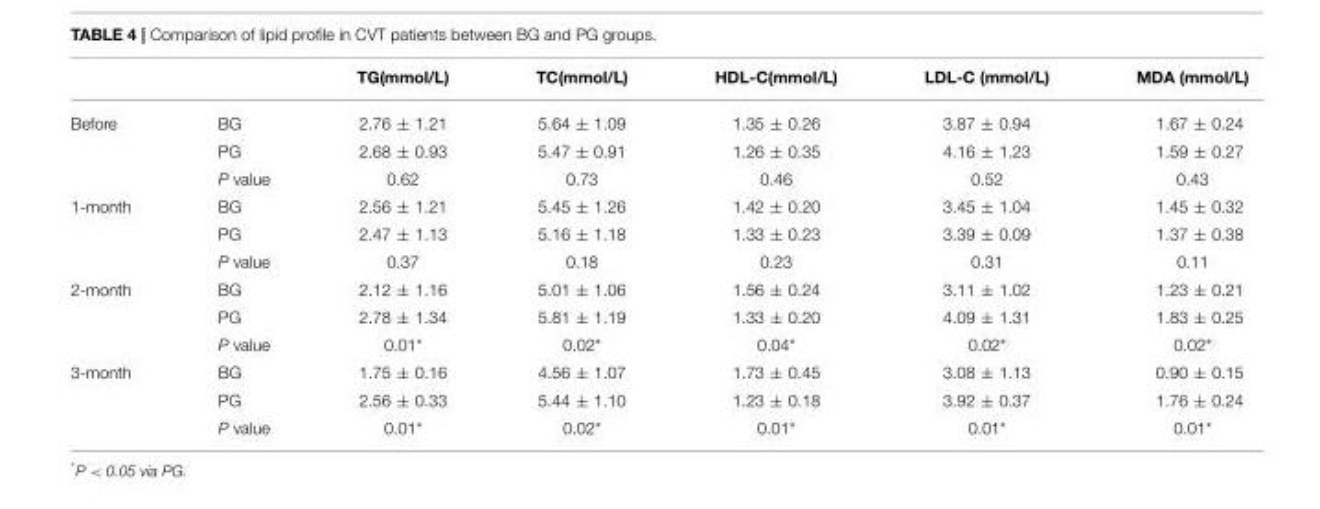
<table><thead><tr><td></td><td></td><td>TG(mmol/L)</td><td>TC(mmol/L)</td><td>HDL-C(mmol/L)</td><td>LDL-C (mmol/L)</td><td>MDA (mmol/L)</td></tr></thead><tbody><tr><td rowspan="3">Before</td><td>BG</td><td>2.76 ± 1.21</td><td>5.64 ± 1.09</td><td>1.35 ± 0.26</td><td>3.87 ± 0.94</td><td>1.67 ± 0.24</td></tr><tr><td>PG</td><td>2.68 ± 0.93</td><td>5.47 ± 0.91</td><td>1.26 ± 0.35</td><td>4.16 ± 1.23</td><td>1.59 ± 0.27</td></tr><tr><td>P value</td><td>0.62</td><td>0.73</td><td>0.46</td><td>0.52</td><td>0.43</td></tr><tr><td rowspan="3">1-month</td><td>BG</td><td>2.56 ± 1.21</td><td>5.45 ± 1.26</td><td>1.42 ± 0.20</td><td>3.45 ± 1.04</td><td>1.45 ± 0.32</td></tr><tr><td>PG</td><td>2.47 ± 1.13</td><td>5.16 ± 1.18</td><td>1.33 ± 0.23</td><td>3.39 ± 0.09</td><td>1.37 ± 0.38</td></tr><tr><td>P value</td><td>0.37</td><td>0.18</td><td>0.23</td><td>0.31</td><td>0.11</td></tr><tr><td rowspan="3">2-month</td><td>BG</td><td>2.12 ± 1.16</td><td>5.01 ± 1.06</td><td>1.56 ± 0.24</td><td>3.11 ± 1.02</td><td>1.23 ± 0.21</td></tr><tr><td>PG</td><td>2.78 ± 1.34</td><td>5.81 ± 1.19</td><td>1.33 ± 0.20</td><td>4.09 ± 1.31</td><td>1.83 ± 0.25</td></tr><tr><td>P value</td><td>0.01*</td><td>0.02*</td><td>0.04*</td><td>0.02*</td><td>0.02*</td></tr><tr><td rowspan="3">3-month</td><td>BG</td><td>1.75 ± 0.16</td><td>4.56 ± 1.07</td><td>1.73 ± 0.45</td><td>3.08 ± 1.13</td><td>0.90 ± 0.15</td></tr><tr><td>PG</td><td>2.56 ± 0.33</td><td>5.44 ± 1.10</td><td>1.23 ± 0.18</td><td>3.92 ± 0.37</td><td>1.76 ± 0.24</td></tr><tr><td>P value</td><td>0.01*</td><td>0.02*</td><td>0.01*</td><td>0.01*</td><td>0.01*</td></tr></tbody></table>